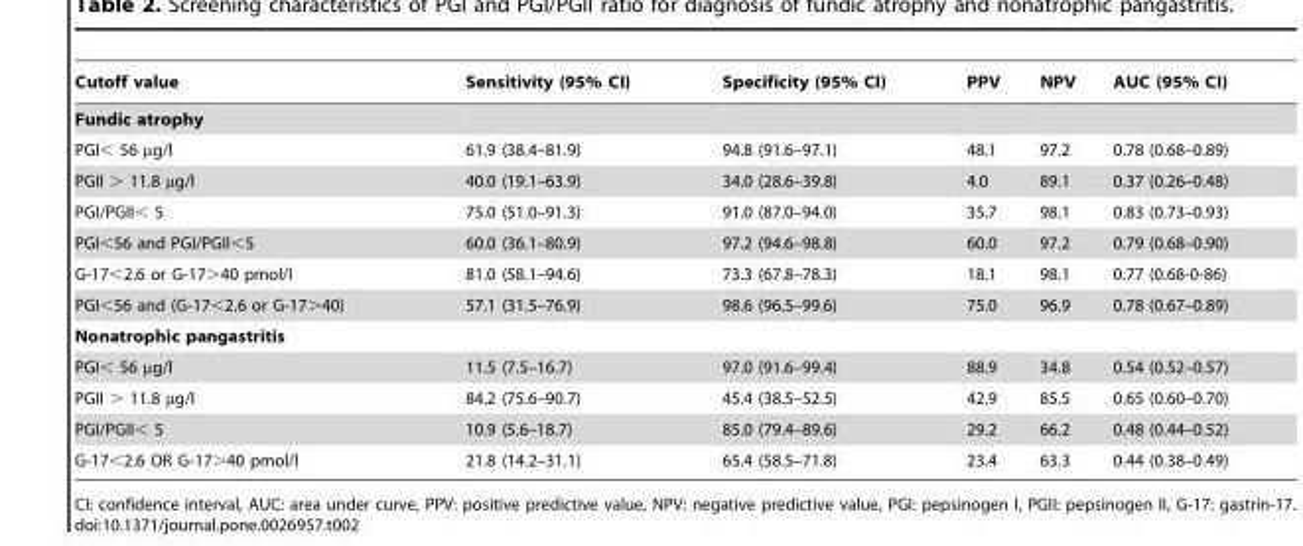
<table><thead><tr><td>Cutoff value</td><td>Sensitivity (95% CI)</td><td>Specificity (95% CI)</td><td>PPV</td><td>NPV</td><td>AUC (95% CI)</td></tr></thead><tbody><tr><td colspan="6">Fundic atrophy</td></tr><tr><td>PGI&lt; 56 µg/l</td><td>61.9 (38.4–81.9)</td><td>94.8 (91.6–97.1)</td><td>48.1</td><td>97.2</td><td>0.78 (0.68–0.89)</td></tr><tr><td>PGII &gt; 11.8 µg/l</td><td>40.0 (19.1–63.9)</td><td>34.0 (28.6–39.8)</td><td>4.0</td><td>89.1</td><td>0.37 (0.26–0.48)</td></tr><tr><td>PGI/PGII&lt; 5</td><td>75.0 (51.0–91.3)</td><td>91.0 (87.0–94.0)</td><td>35.7</td><td>98.1</td><td>0.83 (0.73–0.93)</td></tr><tr><td>PGI&lt;56 and PGI/PGII&lt;5</td><td>60.0 (36.1–80.9)</td><td>97.2 (94.6–98.8)</td><td>60.0</td><td>97.2</td><td>0.79 (0.68–0.90)</td></tr><tr><td>G-17&lt;2.6 or G-17&gt;40 pmol/l</td><td>81.0 (58.1–94.6)</td><td>73.3 (67.8–78.3)</td><td>18.1</td><td>98.1</td><td>0.77 (0.68-0-86)</td></tr><tr><td>PGI&lt;56 and (G-17&lt;2.6 or G-17&gt;40)</td><td>57.1 (31.5–76.9)</td><td>98.6 (96.5–99.6)</td><td>75.0</td><td>96.9</td><td>0.78 (0.67–0.89)</td></tr><tr><td colspan="6">Nonatrophic pangastritis</td></tr><tr><td>PGI&lt; 56 µg/l</td><td>11.5 (7.5–16.7)</td><td>97.0 (91.6–99.4)</td><td>88.9</td><td>34.8</td><td>0.54 (0.52–0.57)</td></tr><tr><td>PGII &gt; 11.8 µg/l</td><td>84.2 (75.6–90.7)</td><td>45.4 (38.5–52.5)</td><td>42.9</td><td>85.5</td><td>0.65 (0.60–0.70)</td></tr><tr><td>PGI/PGII&lt; 5</td><td>10.9 (5.6–18.7)</td><td>85.0 (79.4–89.6)</td><td>29.2</td><td>66.2</td><td>0.48 (0.44–0.52)</td></tr><tr><td>G-17&lt;2.6 OR G-17&gt;40 pmol/l</td><td>21.8 (14.2–31.1)</td><td>65.4 (58.5–71.8)</td><td>23.4</td><td>63.3</td><td>0.44 (0.38–0.49)</td></tr></tbody></table>